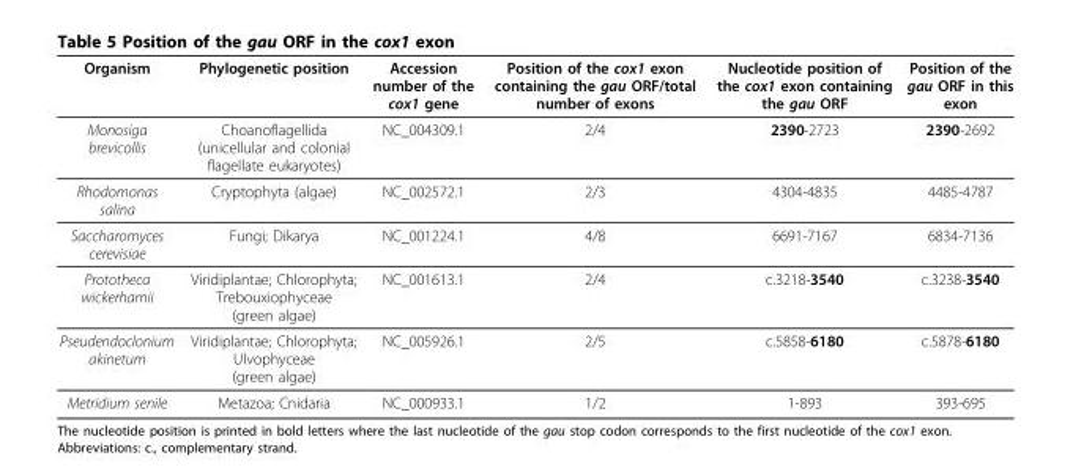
<table><thead><tr><td>Organism</td><td>Phylogenetic position</td><td>Accession number of the cox1 gene</td><td>Position of the cox1 exon containing the gau ORF/total number of exons</td><td>Nucleotide position of the cox1 exon containing the gau ORF</td><td>Position of the gau ORF in this exon</td></tr></thead><tbody><tr><td>Monosiga brevicollis</td><td>Choanoflagellida (unicellular and colonial flagellate eukaryotes)</td><td>NC_004309.1</td><td>2/4</td><td>2390-2723</td><td>2390-2692</td></tr><tr><td>Rhodomonas salina</td><td>Cryptophyta (algae)</td><td>NC_002572.1</td><td>2/3</td><td>4304-4835</td><td>4485-4787</td></tr><tr><td>Saccharomyces cerevisiae</td><td>Fungi; Dikarya</td><td>NC_001224.1</td><td>4/8</td><td>6691-7167</td><td>6834-7136</td></tr><tr><td>Prototheca wickerhamii</td><td>Viridiplantae; Chlorophyta; Trebouxiophyceae (green algae)</td><td>NC_001613.1</td><td>2/4</td><td>c.3218-3540</td><td>c.3238-3540</td></tr><tr><td>Pseudendoclonium akinetum</td><td>Viridiplantae; Chlorophyta; Ulvophyceae (green algae)</td><td>NC_005926.1</td><td>2/5</td><td>c.5858-6180</td><td>c.5878-6180</td></tr><tr><td>Metridium senile</td><td>Metazoa; Cnidaria</td><td>NC_000933.1</td><td>1/2</td><td>1-893</td><td>393-695</td></tr></tbody></table>